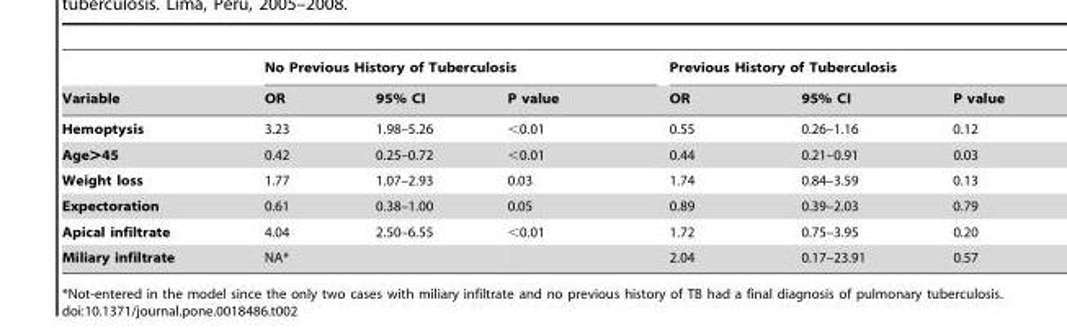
<table><thead><tr><td rowspan="2">Variable</td><td colspan="3">No Previous History of Tuberculosis</td><td colspan="3">Previous History of Tuberculosis</td></tr><tr><td>OR</td><td>95% CI</td><td>P value</td><td>OR</td><td>95% CI</td><td>P value</td></tr></thead><tbody><tr><td>Hemoptysis</td><td>3.23</td><td>1.98–5.26</td><td>&lt;0.01</td><td>0.55</td><td>0.26–1.16</td><td>0.12</td></tr><tr><td>Age&gt;45</td><td>0.42</td><td>0.25–0.72</td><td>&lt;0.01</td><td>0.44</td><td>0.21–0.91</td><td>0.03</td></tr><tr><td>Weight loss</td><td>1.77</td><td>1.07–2.93</td><td>0.03</td><td>1.74</td><td>0.84–3.59</td><td>0.13</td></tr><tr><td>Expectoration</td><td>0.61</td><td>0.38–1.00</td><td>0.05</td><td>0.89</td><td>0.39–2.03</td><td>0.79</td></tr><tr><td>Apical infiltrate</td><td>4.04</td><td>2.50–6.55</td><td>&lt;0.01</td><td>1.72</td><td>0.75–3.95</td><td>0.20</td></tr><tr><td>Miliary infiltrate</td><td>NA*</td><td></td><td></td><td>2.04</td><td>0.17–23.91</td><td>0.57</td></tr></tbody></table>